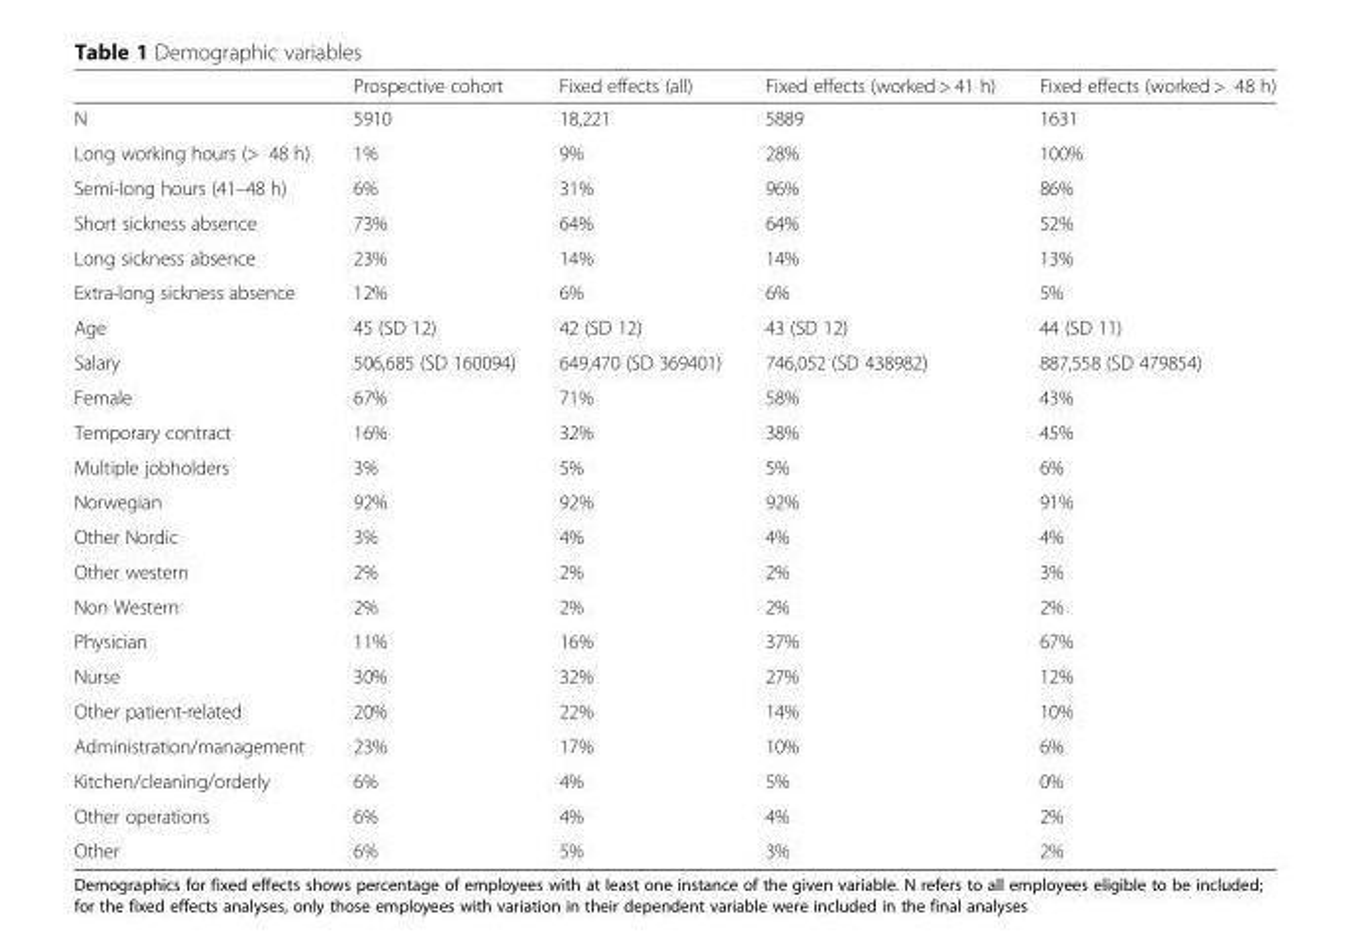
<table><thead><tr><td></td><td>Prospective cohort</td><td>Fixed effects (all)</td><td>Fixed effects (worked &gt; 41 h)</td><td>Fixed effects (worked &gt; 48 h)</td></tr></thead><tbody><tr><td>N</td><td>5910</td><td>18,221</td><td>5889</td><td>1631</td></tr><tr><td>Long working hours (&gt; 48 h)</td><td>1%</td><td>9%</td><td>28%</td><td>100%</td></tr><tr><td>Semi-long hours (41–48 h)</td><td>6%</td><td>31%</td><td>96%</td><td>86%</td></tr><tr><td>Short sickness absence</td><td>73%</td><td>64%</td><td>64%</td><td>52%</td></tr><tr><td>Long sickness absence</td><td>23%</td><td>14%</td><td>14%</td><td>13%</td></tr><tr><td>Extra-long sickness absence</td><td>12%</td><td>6%</td><td>6%</td><td>5%</td></tr><tr><td>Age</td><td>45 (SD 12)</td><td>42 (SD 12)</td><td>43 (SD 12)</td><td>44 (SD 11)</td></tr><tr><td>Salary</td><td>506,685 (SD 160094)</td><td>649,470 (SD 369401)</td><td>746,052 (SD 438982)</td><td>887,558 (SD 479854)</td></tr><tr><td>Female</td><td>67%</td><td>71%</td><td>58%</td><td>43%</td></tr><tr><td>Temporary contract</td><td>16%</td><td>32%</td><td>38%</td><td>45%</td></tr><tr><td>Multiple jobholders</td><td>3%</td><td>5%</td><td>5%</td><td>6%</td></tr><tr><td>Norwegian</td><td>92%</td><td>92%</td><td>92%</td><td>91%</td></tr><tr><td>Other Nordic</td><td>3%</td><td>4%</td><td>4%</td><td>4%</td></tr><tr><td>Other western</td><td>2%</td><td>2%</td><td>2%</td><td>3%</td></tr><tr><td>Non Western</td><td>2%</td><td>2%</td><td>2%</td><td>2%</td></tr><tr><td>Physician</td><td>11%</td><td>16%</td><td>37%</td><td>67%</td></tr><tr><td>Nurse</td><td>30%</td><td>32%</td><td>27%</td><td>12%</td></tr><tr><td>Other patient-related</td><td>20%</td><td>22%</td><td>14%</td><td>10%</td></tr><tr><td>Administration/management</td><td>23%</td><td>17%</td><td>10%</td><td>6%</td></tr><tr><td>Kitchen/cleaning/orderly</td><td>6%</td><td>4%</td><td>5%</td><td>0%</td></tr><tr><td>Other operations</td><td>6%</td><td>4%</td><td>4%</td><td>2%</td></tr><tr><td>Other</td><td>6%</td><td>5%</td><td>3%</td><td>2%</td></tr></tbody></table>